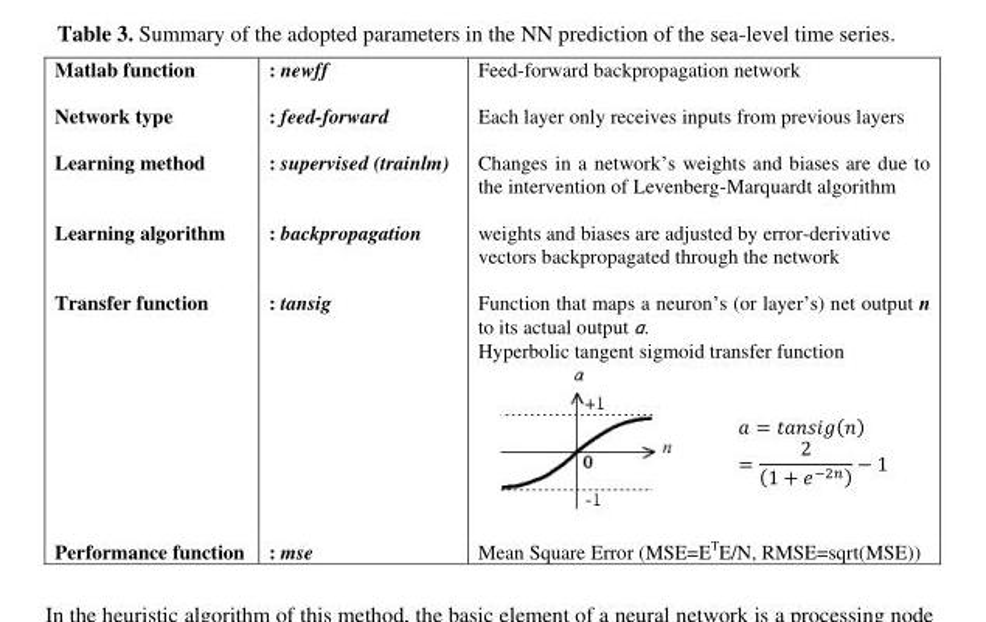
<table><tbody><tr><td>Matlab function</td><td>: newff</td><td>Feed-forward backpropagation network</td></tr><tr><td>Network type</td><td>: feed-forward</td><td>Each layer only receives inputs from previous layers</td></tr><tr><td>Learning method</td><td>: supervised (trainlm)</td><td>Changes in a network‘s weights and biases are due to the intervention of Levenberg-Marquardt algorithm</td></tr><tr><td>Learning algorithm</td><td>: backpropagation</td><td>weights and biases are adjusted by error-derivative vectors backpropagated through the network</td></tr><tr><td>Transfer function</td><td>: tansig</td><td>Function that maps a neuron‘s (or layer‘s) net output n to its actual output ɑ. Hyperbolic tangent sigmoid transfer function</td></tr><tr><td>Performance function</td><td>: mse</td><td>Mean Square Error (MSE=E<sup>T</sup>E/N, RMSE=sqrt(MSE))</td></tr></tbody></table>